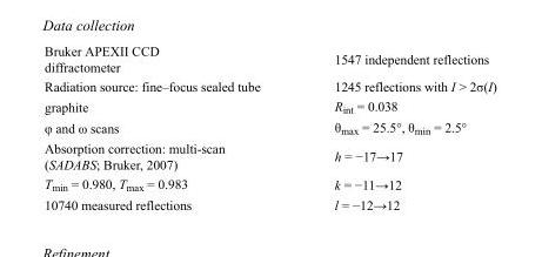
<table><tbody><tr><td>Bruker APEXII CCD diffractometer</td><td>1547 independent reflections</td></tr><tr><td>Radiation source: fine–focus sealed tube</td><td>1245 reflections with I &gt; 2σ(I)</td></tr><tr><td>graphite</td><td>R<sub>int</sub> = 0.038</td></tr><tr><td>φ and ω scans</td><td>θ<sub>max</sub> = 25.5°, θ<sub>min</sub> = 2.5°</td></tr><tr><td>Absorption correction: multi-scan (SADABS; Bruker, 2007)</td><td>h = −17→17</td></tr><tr><td>T<sub>min</sub> = 0.980, T<sub>max</sub> = 0.983</td><td>k = −11→12</td></tr><tr><td>10740 measured reflections</td><td>l = −12→12</td></tr></tbody></table>